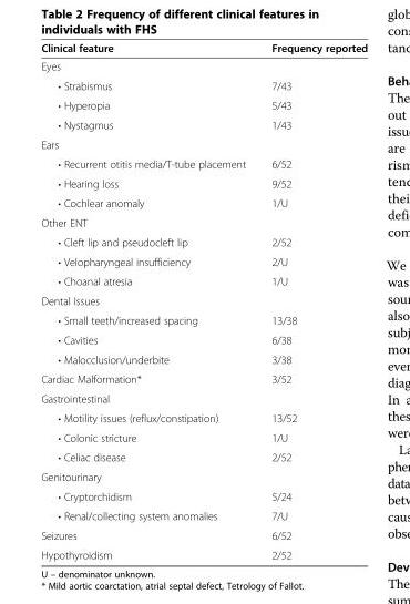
<table><thead><tr><td>Clinical feature</td><td>Frequency reported</td></tr></thead><tbody><tr><td colspan="2">Eyes</td></tr><tr><td>• Strabismus</td><td>7/43</td></tr><tr><td>• Hyperopia</td><td>5/43</td></tr><tr><td>• Nystagmus</td><td>1/43</td></tr><tr><td colspan="2">Ears</td></tr><tr><td>• Recurrent otitis media/T-tube placement</td><td>6/52</td></tr><tr><td>• Hearing loss</td><td>9/52</td></tr><tr><td>• Cochlear anomaly</td><td>1/U</td></tr><tr><td colspan="2">Other ENT</td></tr><tr><td>• Cleft lip and pseudocleft lip</td><td>2/52</td></tr><tr><td>• Velopharyngeal insufficiency</td><td>2/U</td></tr><tr><td>• Choanal atresia</td><td>1/U</td></tr><tr><td colspan="2">Dental Issues</td></tr><tr><td>• Small teeth/increased spacing</td><td>13/38</td></tr><tr><td>• Cavities</td><td>6/38</td></tr><tr><td>• Malocclusion/underbite</td><td>3/38</td></tr><tr><td>Cardiac Malformation*</td><td>3/52</td></tr><tr><td colspan="2">Gastrointestinal</td></tr><tr><td>• Motility issues (reflux/constipation)</td><td>13/52</td></tr><tr><td>• Colonic stricture</td><td>1/U</td></tr><tr><td>• Celiac disease</td><td>2/52</td></tr><tr><td colspan="2">Genitourinary</td></tr><tr><td>• Cryptorchidism</td><td>5/24</td></tr><tr><td>• Renal/collecting system anomalies</td><td>7/U</td></tr><tr><td>Seizures</td><td>6/52</td></tr><tr><td>Hypothyroidism</td><td>2/52</td></tr></tbody></table>